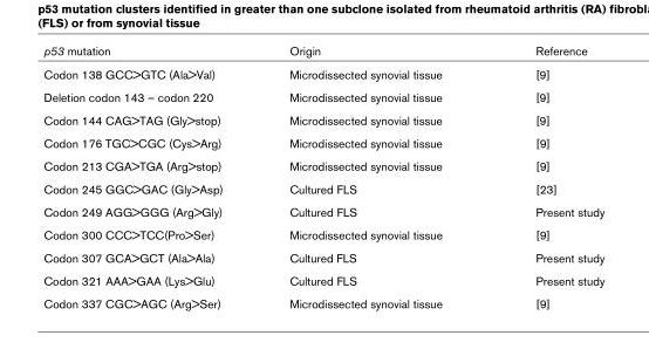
<table><thead><tr><td>p53 mutation</td><td>Origin</td><td>Reference</td></tr></thead><tbody><tr><td>Codon 138 GCC&gt;GTC (Ala&gt;Val)</td><td>Microdissected synovial tissue</td><td>[9]</td></tr><tr><td>Deletion codon 143 – codon 220</td><td>Microdissected synovial tissue</td><td>[9]</td></tr><tr><td>Codon 144 CAG&gt;TAG (Gly&gt;stop)</td><td>Microdissected synovial tissue</td><td>[9]</td></tr><tr><td>Codon 176 TGC&gt;CGC (Cys&gt;Arg)</td><td>Microdissected synovial tissue</td><td>[9]</td></tr><tr><td>Codon 213 CGA&gt;TGA (Arg&gt;stop)</td><td>Microdissected synovial tissue</td><td>[9]</td></tr><tr><td>Codon 245 GGC&gt;GAC (Gly&gt;Asp)</td><td>Cultured FLS</td><td>[23]</td></tr><tr><td>Codon 249 AGG&gt;GGG (Arg&gt;Gly)</td><td>Cultured FLS</td><td>Present study</td></tr><tr><td>Codon 300 CCC&gt;TCC(Pro&gt;Ser)</td><td>Microdissected synovial tissue</td><td>[9]</td></tr><tr><td>Codon 307 GCA&gt;GCT (Ala&gt;Ala)</td><td>Cultured FLS</td><td>Present study</td></tr><tr><td>Codon 321 AAA&gt;GAA (Lys&gt;Glu)</td><td>Cultured FLS</td><td>Present study</td></tr><tr><td>Codon 337 CGC&gt;AGC (Arg&gt;Ser)</td><td>Microdissected synovial tissue</td><td>[9]</td></tr></tbody></table>